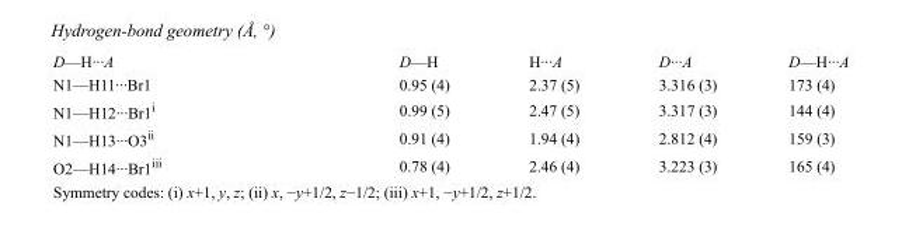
<table><tbody><tr><td>D—H···A</td><td>D—H</td><td>H···A</td><td>D···A</td><td>D—H···A</td></tr><tr><td>N1—H11···Br1</td><td>0.95 (4)</td><td>2.37 (5)</td><td>3.316 (3)</td><td>173 (4)</td></tr><tr><td>N1—H12···Br1<sup>i</sup></td><td>0.99 (5)</td><td>2.47 (5)</td><td>3.317 (3)</td><td>144 (4)</td></tr><tr><td>N1—H13···O3<sup>ii</sup></td><td>0.91 (4)</td><td>1.94 (4)</td><td>2.812 (4)</td><td>159 (3)</td></tr><tr><td>O2—H14···Br1<sup>iii</sup></td><td>0.78 (4)</td><td>2.46 (4)</td><td>3.223 (3)</td><td>165 (4)</td></tr></tbody></table>